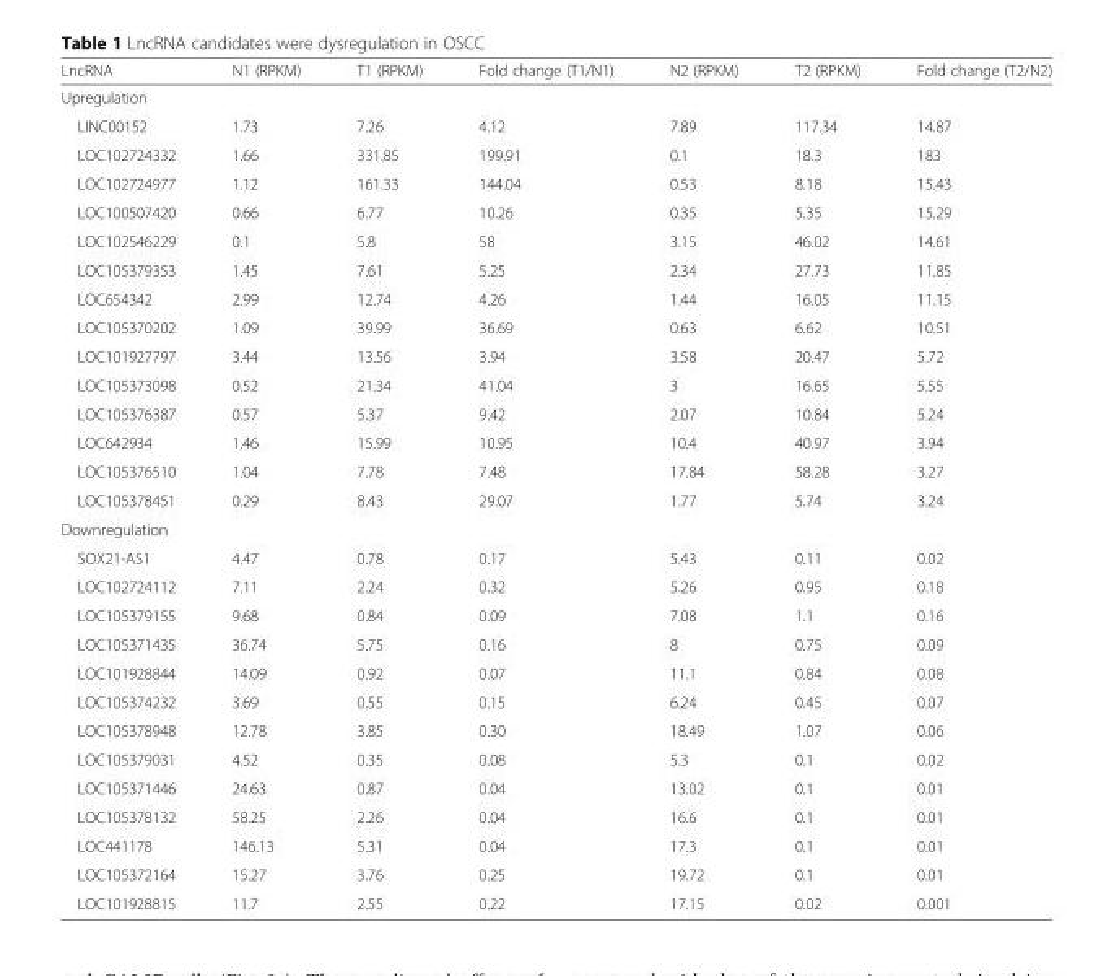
<table><thead><tr><td>LncRNA</td><td>N1 (RPKM)</td><td>T1 (RPKM)</td><td>Fold change (T1/N1)</td><td>N2 (RPKM)</td><td>T2 (RPKM)</td><td>Fold change (T2/N2)</td></tr></thead><tbody><tr><td colspan="7">Upregulation</td></tr><tr><td>LINC00152</td><td>1.73</td><td>7.26</td><td>4.12</td><td>7.89</td><td>117.34</td><td>14.87</td></tr><tr><td>LOC102724332</td><td>1.66</td><td>331.85</td><td>199.91</td><td>0.1</td><td>18.3</td><td>183</td></tr><tr><td>LOC102724977</td><td>1.12</td><td>161.33</td><td>144.04</td><td>0.53</td><td>8.18</td><td>15.43</td></tr><tr><td>LOC100507420</td><td>0.66</td><td>6.77</td><td>10.26</td><td>0.35</td><td>5.35</td><td>15.29</td></tr><tr><td>LOC102546229</td><td>0.1</td><td>5.8</td><td>58</td><td>3.15</td><td>46.02</td><td>14.61</td></tr><tr><td>LOC105379353</td><td>1.45</td><td>7.61</td><td>5.25</td><td>2.34</td><td>27.73</td><td>11.85</td></tr><tr><td>LOC654342</td><td>2.99</td><td>12.74</td><td>4.26</td><td>1.44</td><td>16.05</td><td>11.15</td></tr><tr><td>LOC105370202</td><td>1.09</td><td>39.99</td><td>36.69</td><td>0.63</td><td>6.62</td><td>10.51</td></tr><tr><td>LOC101927797</td><td>3.44</td><td>13.56</td><td>3.94</td><td>3.58</td><td>20.47</td><td>5.72</td></tr><tr><td>LOC105373098</td><td>0.52</td><td>21.34</td><td>41.04</td><td>3</td><td>16.65</td><td>5.55</td></tr><tr><td>LOC105376387</td><td>0.57</td><td>5.37</td><td>9.42</td><td>2.07</td><td>10.84</td><td>5.24</td></tr><tr><td>LOC642934</td><td>1.46</td><td>15.99</td><td>10.95</td><td>10.4</td><td>40.97</td><td>3.94</td></tr><tr><td>LOC105376510</td><td>1.04</td><td>7.78</td><td>7.48</td><td>17.84</td><td>58.28</td><td>3.27</td></tr><tr><td>LOC105378451</td><td>0.29</td><td>8.43</td><td>29.07</td><td>1.77</td><td>5.74</td><td>3.24</td></tr><tr><td colspan="7">Downregulation</td></tr><tr><td>SOX21-AS1</td><td>4.47</td><td>0.78</td><td>0.17</td><td>5.43</td><td>0.11</td><td>0.02</td></tr><tr><td>LOC102724112</td><td>7.11</td><td>2.24</td><td>0.32</td><td>5.26</td><td>0.95</td><td>0.18</td></tr><tr><td>LOC105379155</td><td>9.68</td><td>0.84</td><td>0.09</td><td>7.08</td><td>1.1</td><td>0.16</td></tr><tr><td>LOC105371435</td><td>36.74</td><td>5.75</td><td>0.16</td><td>8</td><td>0.75</td><td>0.09</td></tr><tr><td>LOC101928844</td><td>14.09</td><td>0.92</td><td>0.07</td><td>11.1</td><td>0.84</td><td>0.08</td></tr><tr><td>LOC105374232</td><td>3.69</td><td>0.55</td><td>0.15</td><td>6.24</td><td>0.45</td><td>0.07</td></tr><tr><td>LOC105378948</td><td>12.78</td><td>3.85</td><td>0.30</td><td>18.49</td><td>1.07</td><td>0.06</td></tr><tr><td>LOC105379031</td><td>4.52</td><td>0.35</td><td>0.08</td><td>5.3</td><td>0.1</td><td>0.02</td></tr><tr><td>LOC105371446</td><td>24.63</td><td>0.87</td><td>0.04</td><td>13.02</td><td>0.1</td><td>0.01</td></tr><tr><td>LOC105378132</td><td>58.25</td><td>2.26</td><td>0.04</td><td>16.6</td><td>0.1</td><td>0.01</td></tr><tr><td>LOC441178</td><td>146.13</td><td>5.31</td><td>0.04</td><td>17.3</td><td>0.1</td><td>0.01</td></tr><tr><td>LOC105372164</td><td>15.27</td><td>3.76</td><td>0.25</td><td>19.72</td><td>0.1</td><td>0.01</td></tr><tr><td>LOC101928815</td><td>11.7</td><td>2.55</td><td>0.22</td><td>17.15</td><td>0.02</td><td>0.001</td></tr></tbody></table>